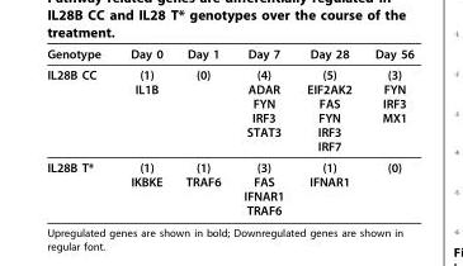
<table><thead><tr><td>Genotype</td><td>Day 0</td><td>Day 1</td><td>Day 7</td><td>Day 28</td><td>Day 56</td></tr></thead><tbody><tr><td>IL28B CC</td><td>(1) IL1B</td><td>(0)</td><td>(4) ADAR FYN IRF3 STAT3</td><td>(5) EIF2AK2 FAS FYN IRF3 IRF7</td><td>(3) FYN IRF3 MX1</td></tr><tr><td>IL28B T*</td><td>(1) IKBKE</td><td>(1) TRAF6</td><td>(3) FAS IFNAR1 TRAF6</td><td>(1) IFNAR1</td><td>(0)</td></tr></tbody></table>